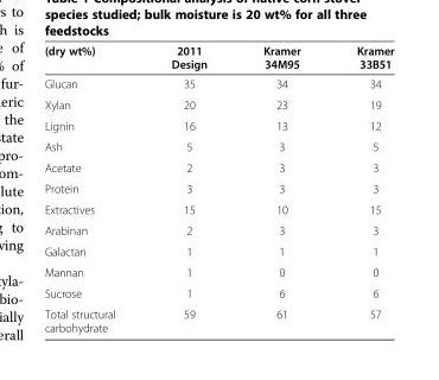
<table><thead><tr><td>(dry wt%)</td><td>2011 Design</td><td>Kramer 34M95</td><td>Kramer 33B51</td></tr></thead><tbody><tr><td>Glucan</td><td>35</td><td>34</td><td>34</td></tr><tr><td>Xylan</td><td>20</td><td>23</td><td>19</td></tr><tr><td>Lignin</td><td>16</td><td>13</td><td>12</td></tr><tr><td>Ash</td><td>5</td><td>3</td><td>5</td></tr><tr><td>Acetate</td><td>2</td><td>3</td><td>3</td></tr><tr><td>Protein</td><td>3</td><td>3</td><td>3</td></tr><tr><td>Extractives</td><td>15</td><td>10</td><td>15</td></tr><tr><td>Arabinan</td><td>2</td><td>3</td><td>3</td></tr><tr><td>Galactan</td><td>1</td><td>1</td><td>1</td></tr><tr><td>Mannan</td><td>1</td><td>0</td><td>0</td></tr><tr><td>Sucrose</td><td>1</td><td>6</td><td>6</td></tr><tr><td>Total structural carbohydrate</td><td>59</td><td>61</td><td>57</td></tr></tbody></table>